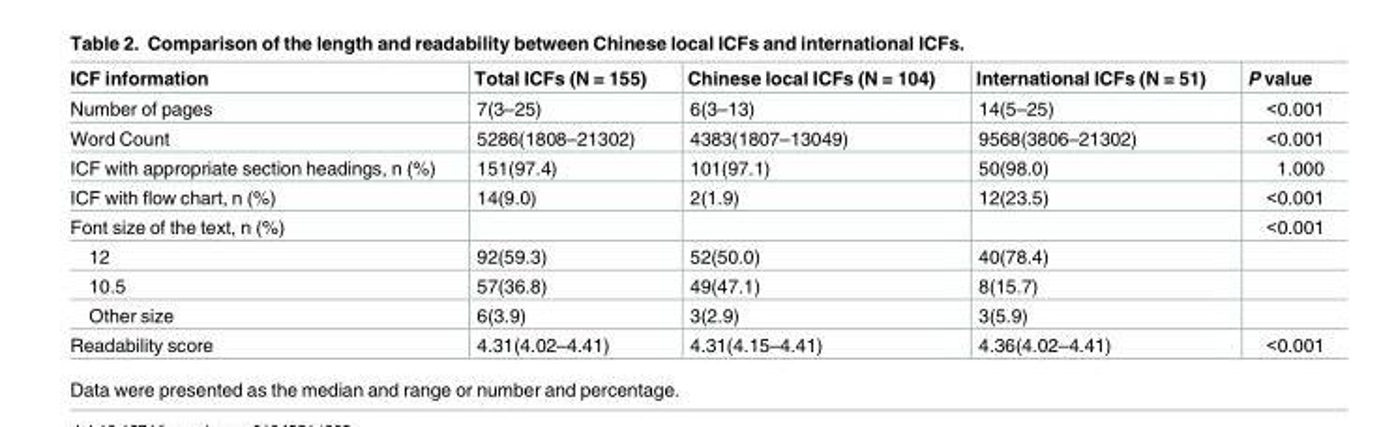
<table><thead><tr><td>ICF information</td><td>Total ICFs (N = 155)</td><td>Chinese local ICFs (N = 104)</td><td>International ICFs (N = 51)</td><td>P value</td></tr></thead><tbody><tr><td>Number of pages</td><td>7(3–25)</td><td>6(3–13)</td><td>14(5–25)</td><td>&lt;0.001</td></tr><tr><td>Word Count</td><td>5286(1808–21302)</td><td>4383(1807–13049)</td><td>9568(3806–21302)</td><td>&lt;0.001</td></tr><tr><td>ICF with appropriate section headings, n (%)</td><td>151(97.4)</td><td>101(97.1)</td><td>50(98.0)</td><td>1.000</td></tr><tr><td>ICF with flow chart, n (%)</td><td>14(9.0)</td><td>2(1.9)</td><td>12(23.5)</td><td>&lt;0.001</td></tr><tr><td>Font size of the text, n (%)</td><td></td><td></td><td></td><td>&lt;0.001</td></tr><tr><td>12</td><td>92(59.3)</td><td>52(50.0)</td><td>40(78.4)</td><td></td></tr><tr><td>10.5</td><td>57(36.8)</td><td>49(47.1)</td><td>8(15.7)</td><td></td></tr><tr><td>Other size</td><td>6(3.9)</td><td>3(2.9)</td><td>3(5.9)</td><td></td></tr><tr><td>Readability score</td><td>4.31(4.02–4.41)</td><td>4.31(4.15–4.41)</td><td>4.36(4.02–4.41)</td><td>&lt;0.001</td></tr></tbody></table>